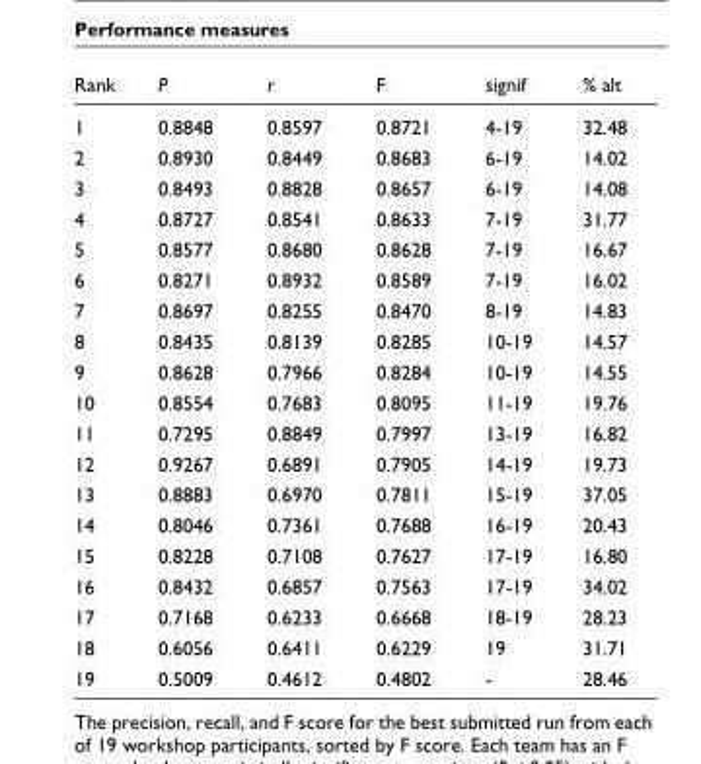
<table><thead><tr><td>Rank</td><td>P</td><td>r</td><td>F</td><td>signif</td><td>% alt</td></tr></thead><tbody><tr><td>1</td><td>0.8848</td><td>0.8597</td><td>0.8721</td><td>4-19</td><td>32.48</td></tr><tr><td>2</td><td>0.8930</td><td>0.8449</td><td>0.8683</td><td>6-19</td><td>14.02</td></tr><tr><td>3</td><td>0.8493</td><td>0.8828</td><td>0.8657</td><td>6-19</td><td>14.08</td></tr><tr><td>4</td><td>0.8727</td><td>0.8541</td><td>0.8633</td><td>7-19</td><td>31.77</td></tr><tr><td>5</td><td>0.8577</td><td>0.8680</td><td>0.8628</td><td>7-19</td><td>16.67</td></tr><tr><td>6</td><td>0.8271</td><td>0.8932</td><td>0.8589</td><td>7-19</td><td>16.02</td></tr><tr><td>7</td><td>0.8697</td><td>0.8255</td><td>0.8470</td><td>8-19</td><td>14.83</td></tr><tr><td>8</td><td>0.8435</td><td>0.8139</td><td>0.8285</td><td>10-19</td><td>14.57</td></tr><tr><td>9</td><td>0.8628</td><td>0.7966</td><td>0.8284</td><td>10-19</td><td>14.55</td></tr><tr><td>10</td><td>0.8554</td><td>0.7683</td><td>0.8095</td><td>11-19</td><td>19.76</td></tr><tr><td>11</td><td>0.7295</td><td>0.8849</td><td>0.7997</td><td>13-19</td><td>16.82</td></tr><tr><td>12</td><td>0.9267</td><td>0.6891</td><td>0.7905</td><td>14-19</td><td>19.73</td></tr><tr><td>13</td><td>0.8883</td><td>0.6970</td><td>0.7811</td><td>15-19</td><td>37.05</td></tr><tr><td>14</td><td>0.8046</td><td>0.7361</td><td>0.7688</td><td>16-19</td><td>20.43</td></tr><tr><td>15</td><td>0.8228</td><td>0.7108</td><td>0.7627</td><td>17-19</td><td>16.80</td></tr><tr><td>16</td><td>0.8432</td><td>0.6857</td><td>0.7563</td><td>17-19</td><td>34.02</td></tr><tr><td>17</td><td>0.7168</td><td>0.6233</td><td>0.6668</td><td>18-19</td><td>28.23</td></tr><tr><td>18</td><td>0.6056</td><td>0.6411</td><td>0.6229</td><td>19</td><td>31.71</td></tr><tr><td>19</td><td>0.5009</td><td>0.4612</td><td>0.4802</td><td>-</td><td>28.46</td></tr></tbody></table>